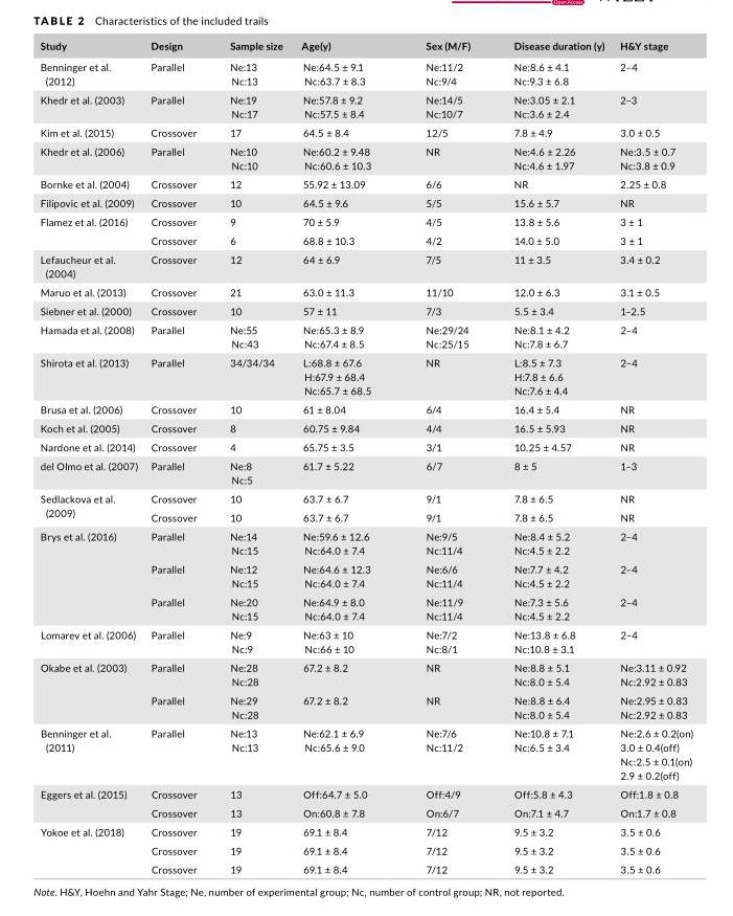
<table><thead><tr><td>Study</td><td>Design</td><td>Sample size</td><td>Age(y)</td><td>Sex (M/F)</td><td>Disease duration (y)</td><td>H&amp;Y stage</td></tr></thead><tbody><tr><td>Benninger et al. (2012)</td><td>Parallel</td><td>Ne:13 Nc:13</td><td>Ne:64.5 ± 9.1 Nc:63.7 ± 8.3</td><td>Ne:11/2 Nc:9/4</td><td>Ne:8.6 ± 4.1 Nc:9.3 ± 6.8</td><td>2–4</td></tr><tr><td>Khedr et al. (2003)</td><td>Parallel</td><td>Ne:19 Nc:17</td><td>Ne:57.8 ± 9.2 Nc:57.5 ± 8.4</td><td>Ne:14/5 Nc:10/7</td><td>Ne:3.05 ± 2.1 Nc:3.6 ± 2.4</td><td>2–3</td></tr><tr><td>Kim et al. (2015)</td><td>Crossover</td><td>17</td><td>64.5 ± 8.4</td><td>12/5</td><td>7.8 ± 4.9</td><td>3.0 ± 0.5</td></tr><tr><td>Khedr et al. (2006)</td><td>Parallel</td><td>Ne:10 Nc:10</td><td>Ne:60.2 ± 9.48 Nc:60.6 ± 10.3</td><td>NR</td><td>Ne:4.6 ± 2.26 Nc:4.6 ± 1.97</td><td>Ne:3.5 ± 0.7 Nc:3.8 ± 0.9</td></tr><tr><td>Bornke et al. (2004)</td><td>Crossover</td><td>12</td><td>55.92 ± 13.09</td><td>6/6</td><td>NR</td><td>2.25 ± 0.8</td></tr><tr><td>Filipovic et al. (2009)</td><td>Crossover</td><td>10</td><td>64.5 ± 9.6</td><td>5/5</td><td>15.6 ± 5.7</td><td>NR</td></tr><tr><td rowspan="2">Flamez et al. (2016)</td><td>Crossover</td><td>9</td><td>70 ± 5.9</td><td>4/5</td><td>13.8 ± 5.6</td><td>3 ± 1</td></tr><tr><td>Crossover</td><td>6</td><td>68.8 ± 10.3</td><td>4/2</td><td>14.0 ± 5.0</td><td>3 ± 1</td></tr><tr><td>Lefaucheur et al. (2004)</td><td>Crossover</td><td>12</td><td>64 ± 6.9</td><td>7/5</td><td>11 ± 3.5</td><td>3.4 ± 0.2</td></tr><tr><td>Maruo et al. (2013)</td><td>Crossover</td><td>21</td><td>63.0 ± 11.3</td><td>11/10</td><td>12.0 ± 6.3</td><td>3.1 ± 0.5</td></tr><tr><td>Siebner et al. (2000)</td><td>Crossover</td><td>10</td><td>57 ± 11</td><td>7/3</td><td>5.5 ± 3.4</td><td>1–2.5</td></tr><tr><td>Hamada et al. (2008)</td><td>Parallel</td><td>Ne:55 Nc:43</td><td>Ne:65.3 ± 8.9 Nc:67.4 ± 8.5</td><td>Ne:29/24 Nc:25/15</td><td>Ne:8.1 ± 4.2 Nc:7.8 ± 6.7</td><td>2–4</td></tr><tr><td>Shirota et al. (2013)</td><td>Parallel</td><td>34/34/34</td><td>L:68.8 ± 67.6 H:67.9 ± 68.4 Nc:65.7 ± 68.5</td><td>NR</td><td>L:8.5 ± 7.3 H:7.8 ± 6.6 Nc:7.6 ± 4.4</td><td>2–4</td></tr><tr><td>Brusa et al. (2006)</td><td>Crossover</td><td>10</td><td>61 ± 8.04</td><td>6/4</td><td>16.4 ± 5.4</td><td>NR</td></tr><tr><td>Koch et al. (2005)</td><td>Crossover</td><td>8</td><td>60.75 ± 9.84</td><td>4/4</td><td>16.5 ± 5.93</td><td>NR</td></tr><tr><td>Nardone et al. (2014)</td><td>Crossover</td><td>4</td><td>65.75 ± 3.5</td><td>3/1</td><td>10.25 ± 4.57</td><td>NR</td></tr><tr><td>del Olmo et al. (2007)</td><td>Parallel</td><td>Ne:8 Nc:5</td><td>61.7 ± 5.22</td><td>6/7</td><td>8 ± 5</td><td>1–3</td></tr><tr><td rowspan="2">Sedlackova et al. (2009)</td><td>Crossover</td><td>10</td><td>63.7 ± 6.7</td><td>9/1</td><td>7.8 ± 6.5</td><td>NR</td></tr><tr><td>Crossover</td><td>10</td><td>63.7 ± 6.7</td><td>9/1</td><td>7.8 ± 6.5</td><td>NR</td></tr><tr><td rowspan="3">Brys et al. (2016)</td><td>Parallel</td><td>Ne:14 Nc:15</td><td>Ne:59.6 ± 12.6 Nc:64.0 ± 7.4</td><td>Ne:9/5 Nc:11/4</td><td>Ne:8.4 ± 5.2 Nc:4.5 ± 2.2</td><td>2–4</td></tr><tr><td>Parallel</td><td>Ne:12 Nc:15</td><td>Ne:64.6 ± 12.3 Nc:64.0 ± 7.4</td><td>Ne:6/6 Nc:11/4</td><td>Ne:7.7 ± 4.2 Nc:4.5 ± 2.2</td><td>2–4</td></tr><tr><td>Parallel</td><td>Ne:20 Nc:15</td><td>Ne:64.9 ± 8.0 Nc:64.0 ± 7.4</td><td>Ne:11/9 Nc:11/4</td><td>Ne:7.3 ± 5.6 Nc:4.5 ± 2.2</td><td>2–4</td></tr><tr><td>Lomarev et al. (2006)</td><td>Parallel</td><td>Ne:9 Nc:9</td><td>Ne:63 ± 10 Nc:66 ± 10</td><td>Ne:7/2 Nc:8/1</td><td>Ne:13.8 ± 6.8 Nc:10.8 ± 3.1</td><td>2–4</td></tr><tr><td rowspan="2">Okabe et al. (2003)</td><td>Parallel</td><td>Ne:28 Nc:28</td><td>67.2 ± 8.2</td><td>NR</td><td>Ne:8.8 ± 5.1 Nc:8.0 ± 5.4</td><td>Ne:3.11 ± 0.92 Nc:2.92 ± 0.83</td></tr><tr><td>Parallel</td><td>Ne:29 Nc:28</td><td>67.2 ± 8.2</td><td>NR</td><td>Ne:8.8 ± 6.4 Nc:8.0 ± 5.4</td><td>Ne:2.95 ± 0.83 Nc:2.92 ± 0.83</td></tr><tr><td>Benninger et al. (2011)</td><td>Parallel</td><td>Ne:13 Nc:13</td><td>Ne:62.1 ± 6.9 Nc:65.6 ± 9.0</td><td>Ne:7/6 Nc:11/2</td><td>Ne:10.8 ± 7.1 Nc:6.5 ± 3.4</td><td>Ne:2.6 ± 0.2(on) 3.0 ± 0.4(off) Nc:2.5 ± 0.1(on) 2.9 ± 0.2(off)</td></tr><tr><td rowspan="2">Eggers et al. (2015)</td><td>Crossover</td><td>13</td><td>Off:64.7 ± 5.0</td><td>Off:4/9</td><td>Off:5.8 ± 4.3</td><td>Off:1.8 ± 0.8</td></tr><tr><td>Crossover</td><td>13</td><td>On:60.8 ± 7.8</td><td>On:6/7</td><td>On:7.1 ± 4.7</td><td>On:1.7 ± 0.8</td></tr><tr><td rowspan="3">Yokoe et al. (2018)</td><td>Crossover</td><td>19</td><td>69.1 ± 8.4</td><td>7/12</td><td>9.5 ± 3.2</td><td>3.5 ± 0.6</td></tr><tr><td>Crossover</td><td>19</td><td>69.1 ± 8.4</td><td>7/12</td><td>9.5 ± 3.2</td><td>3.5 ± 0.6</td></tr><tr><td>Crossover</td><td>19</td><td>69.1 ± 8.4</td><td>7/12</td><td>9.5 ± 3.2</td><td>3.5 ± 0.6</td></tr></tbody></table>